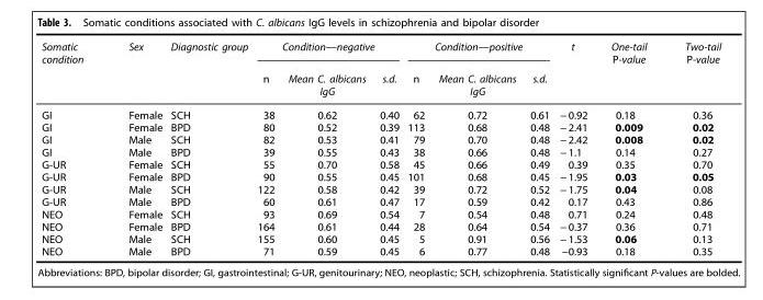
<table><thead><tr><td rowspan="2">Somatic condition</td><td rowspan="2">Sex</td><td rowspan="2">Diagnostic group</td><td colspan="3">Condition—negative</td><td colspan="3">Condition—positive</td><td rowspan="2">t</td><td rowspan="2">One-tail P-value</td><td rowspan="2">Two-tail P-value</td></tr><tr><td>n</td><td>Mean C. albicans IgG</td><td>s.d.</td><td>n</td><td>Mean C. albicans IgG</td><td>s.d.</td></tr></thead><tbody><tr><td>GI</td><td>Female</td><td>SCH</td><td>38</td><td>0.62</td><td>0.40</td><td>62</td><td>0.72</td><td>0.61</td><td>− 0.92</td><td>0.18</td><td>0.36</td></tr><tr><td>GI</td><td>Female</td><td>BPD</td><td>80</td><td>0.52</td><td>0.39</td><td>113</td><td>0.68</td><td>0.48</td><td>− 2.41</td><td>0.009</td><td>0.02</td></tr><tr><td>GI</td><td>Male</td><td>SCH</td><td>82</td><td>0.53</td><td>0.41</td><td>79</td><td>0.70</td><td>0.48</td><td>− 2.42</td><td>0.008</td><td>0.02</td></tr><tr><td>GI</td><td>Male</td><td>BPD</td><td>39</td><td>0.55</td><td>0.43</td><td>38</td><td>0.66</td><td>0.48</td><td>− 1.1</td><td>0.14</td><td>0.27</td></tr><tr><td>G-UR</td><td>Female</td><td>SCH</td><td>55</td><td>0.70</td><td>0.58</td><td>45</td><td>0.66</td><td>0.49</td><td>0.39</td><td>0.35</td><td>0.70</td></tr><tr><td>G-UR</td><td>Female</td><td>BPD</td><td>90</td><td>0.55</td><td>0.45</td><td>101</td><td>0.68</td><td>0.45</td><td>− 1.95</td><td>0.03</td><td>0.05</td></tr><tr><td>G-UR</td><td>Male</td><td>SCH</td><td>122</td><td>0.58</td><td>0.42</td><td>39</td><td>0.72</td><td>0.52</td><td>− 1.75</td><td>0.04</td><td>0.08</td></tr><tr><td>G-UR</td><td>Male</td><td>BPD</td><td>60</td><td>0.61</td><td>0.47</td><td>17</td><td>0.59</td><td>0.42</td><td>0.17</td><td>0.43</td><td>0.86</td></tr><tr><td>NEO</td><td>Female</td><td>SCH</td><td>93</td><td>0.69</td><td>0.54</td><td>7</td><td>0.54</td><td>0.48</td><td>0.71</td><td>0.24</td><td>0.48</td></tr><tr><td>NEO</td><td>Female</td><td>BPD</td><td>164</td><td>0.61</td><td>0.44</td><td>28</td><td>0.64</td><td>0.54</td><td>− 0.37</td><td>0.36</td><td>0.71</td></tr><tr><td>NEO</td><td>Male</td><td>SCH</td><td>155</td><td>0.60</td><td>0.45</td><td>5</td><td>0.91</td><td>0.56</td><td>− 1.53</td><td>0.06</td><td>0.13</td></tr><tr><td>NEO</td><td>Male</td><td>BPD</td><td>71</td><td>0.59</td><td>0.45</td><td>6</td><td>0.77</td><td>0.48</td><td>−0.93</td><td>0.18</td><td>0.35</td></tr></tbody></table>